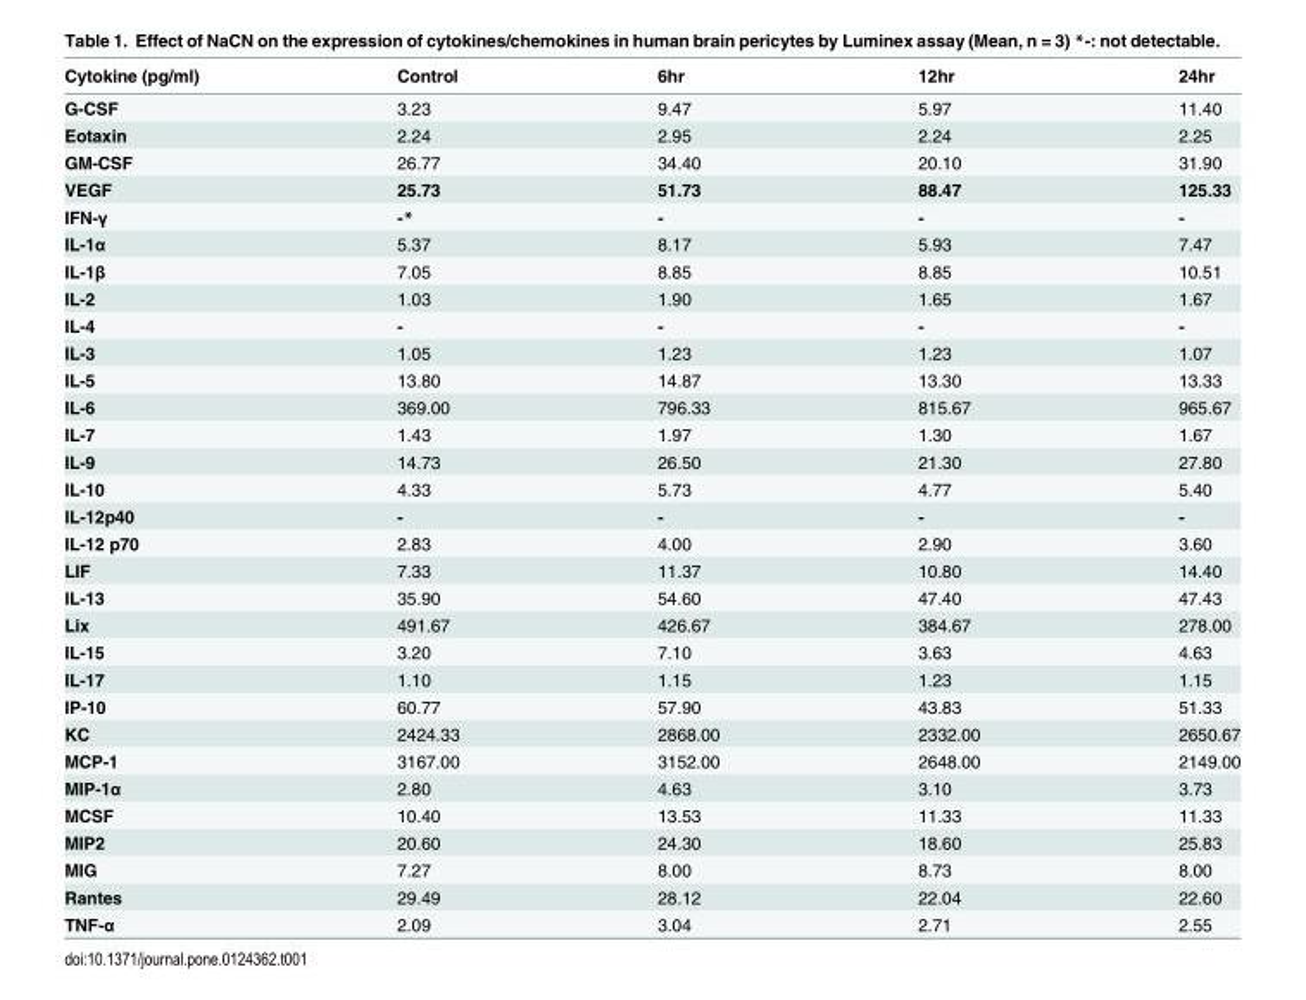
<table><thead><tr><td>Cytokine (pg/ml)</td><td>Control</td><td>6hr</td><td>12hr</td><td>24hr</td></tr></thead><tbody><tr><td>G-CSF</td><td>3.23</td><td>9.47</td><td>5.97</td><td>11.40</td></tr><tr><td>Eotaxin</td><td>2.24</td><td>2.95</td><td>2.24</td><td>2.25</td></tr><tr><td>GM-CSF</td><td>26.77</td><td>34.40</td><td>20.10</td><td>31.90</td></tr><tr><td>VEGF</td><td>25.73</td><td>51.73</td><td>88.47</td><td>125.33</td></tr><tr><td>IFN-γ</td><td>-*</td><td>-</td><td>-</td><td>-</td></tr><tr><td>IL-1α</td><td>5.37</td><td>8.17</td><td>5.93</td><td>7.47</td></tr><tr><td>IL-1β</td><td>7.05</td><td>8.85</td><td>8.85</td><td>10.51</td></tr><tr><td>IL-2</td><td>1.03</td><td>1.90</td><td>1.65</td><td>1.67</td></tr><tr><td>IL-4</td><td>-</td><td>-</td><td>-</td><td>-</td></tr><tr><td>IL-3</td><td>1.05</td><td>1.23</td><td>1.23</td><td>1.07</td></tr><tr><td>IL-5</td><td>13.80</td><td>14.87</td><td>13.30</td><td>13.33</td></tr><tr><td>IL-6</td><td>369.00</td><td>796.33</td><td>815.67</td><td>965.67</td></tr><tr><td>IL-7</td><td>1.43</td><td>1.97</td><td>1.30</td><td>1.67</td></tr><tr><td>IL-9</td><td>14.73</td><td>26.50</td><td>21.30</td><td>27.80</td></tr><tr><td>IL-10</td><td>4.33</td><td>5.73</td><td>4.77</td><td>5.40</td></tr><tr><td>IL-12p40</td><td>-</td><td>-</td><td>-</td><td>-</td></tr><tr><td>IL-12 p70</td><td>2.83</td><td>4.00</td><td>2.90</td><td>3.60</td></tr><tr><td>LIF</td><td>7.33</td><td>11.37</td><td>10.80</td><td>14.40</td></tr><tr><td>IL-13</td><td>35.90</td><td>54.60</td><td>47.40</td><td>47.43</td></tr><tr><td>Lix</td><td>491.67</td><td>426.67</td><td>384.67</td><td>278.00</td></tr><tr><td>IL-15</td><td>3.20</td><td>7.10</td><td>3.63</td><td>4.63</td></tr><tr><td>IL-17</td><td>1.10</td><td>1.15</td><td>1.23</td><td>1.15</td></tr><tr><td>IP-10</td><td>60.77</td><td>57.90</td><td>43.83</td><td>51.33</td></tr><tr><td>KC</td><td>2424.33</td><td>2868.00</td><td>2332.00</td><td>2650.67</td></tr><tr><td>MCP-1</td><td>3167.00</td><td>3152.00</td><td>2648.00</td><td>2149.00</td></tr><tr><td>MIP-1α</td><td>2.80</td><td>4.63</td><td>3.10</td><td>3.73</td></tr><tr><td>MCSF</td><td>10.40</td><td>13.53</td><td>11.33</td><td>11.33</td></tr><tr><td>MIP2</td><td>20.60</td><td>24.30</td><td>18.60</td><td>25.83</td></tr><tr><td>MIG</td><td>7.27</td><td>8.00</td><td>8.73</td><td>8.00</td></tr><tr><td>Rantes</td><td>29.49</td><td>28.12</td><td>22.04</td><td>22.60</td></tr><tr><td>TNF-α</td><td>2.09</td><td>3.04</td><td>2.71</td><td>2.55</td></tr></tbody></table>